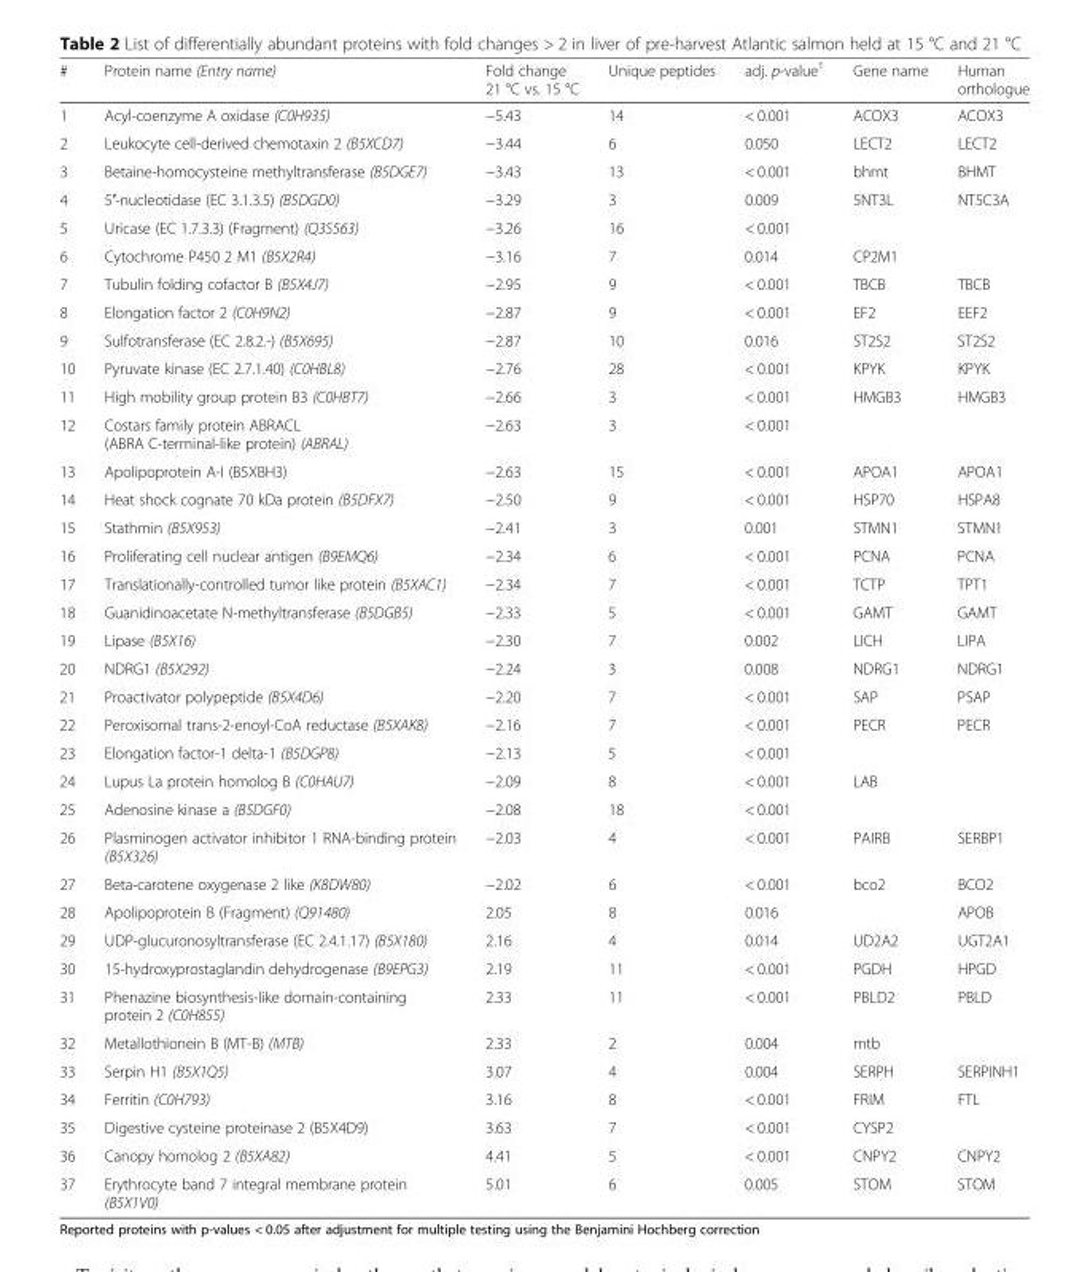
<table><thead><tr><td>#</td><td>Protein name (Entry name)</td><td>Fold change 21 °C vs. 15 °C</td><td>Unique peptides</td><td>adj. p-value<sup>1</sup></td><td>Gene name</td><td>Human orthologue</td></tr></thead><tbody><tr><td>1</td><td>Acyl-coenzyme A oxidase (C0H935)</td><td>−5.43</td><td>14</td><td>&lt; 0.001</td><td>ACOX3</td><td>ACOX3</td></tr><tr><td>2</td><td>Leukocyte cell-derived chemotaxin 2 (B5XCD7)</td><td>−3.44</td><td>6</td><td>0.050</td><td>LECT2</td><td>LECT2</td></tr><tr><td>3</td><td>Betaine-homocysteine methyltransferase (B5DGE7)</td><td>−3.43</td><td>13</td><td>&lt; 0.001</td><td>bhmt</td><td>BHMT</td></tr><tr><td>4</td><td>5′-nucleotidase (EC 3.1.3.5) (B5DGD0)</td><td>−3.29</td><td>3</td><td>0.009</td><td>5NT3L</td><td>NT5C3A</td></tr><tr><td>5</td><td>Uricase (EC 1.7.3.3) (Fragment) (Q3S563)</td><td>−3.26</td><td>16</td><td>&lt; 0.001</td><td></td><td></td></tr><tr><td>6</td><td>Cytochrome P450 2 M1 (B5X2R4)</td><td>−3.16</td><td>7</td><td>0.014</td><td>CP2M1</td><td></td></tr><tr><td>7</td><td>Tubulin folding cofactor B (B5X4J7)</td><td>−2.95</td><td>9</td><td>&lt; 0.001</td><td>TBCB</td><td>TBCB</td></tr><tr><td>8</td><td>Elongation factor 2 (C0H9N2)</td><td>−2.87</td><td>9</td><td>&lt; 0.001</td><td>EF2</td><td>EEF2</td></tr><tr><td>9</td><td>Sulfotransferase (EC 2.8.2.-) (B5X695)</td><td>−2.87</td><td>10</td><td>0.016</td><td>ST2S2</td><td>ST2S2</td></tr><tr><td>10</td><td>Pyruvate kinase (EC 2.7.1.40) (C0HBL8)</td><td>−2.76</td><td>28</td><td>&lt; 0.001</td><td>KPYK</td><td>KPYK</td></tr><tr><td>11</td><td>High mobility group protein B3 (C0HBT7)</td><td>−2.66</td><td>3</td><td>&lt; 0.001</td><td>HMGB3</td><td>HMGB3</td></tr><tr><td>12</td><td>Costars family protein ABRACL (ABRA C-terminal-like protein) (ABRAL)</td><td>−2.63</td><td>3</td><td>&lt; 0.001</td><td></td><td></td></tr><tr><td>13</td><td>Apolipoprotein A-I (B5XBH3)</td><td>−2.63</td><td>15</td><td>&lt; 0.001</td><td>APOA1</td><td>APOA1</td></tr><tr><td>14</td><td>Heat shock cognate 70 kDa protein (B5DFX7)</td><td>−2.50</td><td>9</td><td>&lt; 0.001</td><td>HSP70</td><td>HSPA8</td></tr><tr><td>15</td><td>Stathmin (B5X953)</td><td>−2.41</td><td>3</td><td>0.001</td><td>STMN1</td><td>STMN1</td></tr><tr><td>16</td><td>Proliferating cell nuclear antigen (B9EMQ6)</td><td>−2.34</td><td>6</td><td>&lt; 0.001</td><td>PCNA</td><td>PCNA</td></tr><tr><td>17</td><td>Translationally-controlled tumor like protein (B5XAC1)</td><td>−2.34</td><td>7</td><td>&lt; 0.001</td><td>TCTP</td><td>TPT1</td></tr><tr><td>18</td><td>Guanidinoacetate N-methyltransferase (B5DGB5)</td><td>−2.33</td><td>5</td><td>&lt; 0.001</td><td>GAMT</td><td>GAMT</td></tr><tr><td>19</td><td>Lipase (B5X16)</td><td>−2.30</td><td>7</td><td>0.002</td><td>LICH</td><td>LIPA</td></tr><tr><td>20</td><td>NDRG1 (B5X292)</td><td>−2.24</td><td>3</td><td>0.008</td><td>NDRG1</td><td>NDRG1</td></tr><tr><td>21</td><td>Proactivator polypeptide (B5X4D6)</td><td>−2.20</td><td>7</td><td>&lt; 0.001</td><td>SAP</td><td>PSAP</td></tr><tr><td>22</td><td>Peroxisomal trans-2-enoyl-CoA reductase (B5XAK8)</td><td>−2.16</td><td>7</td><td>&lt; 0.001</td><td>PECR</td><td>PECR</td></tr><tr><td>23</td><td>Elongation factor-1 delta-1 (B5DGP8)</td><td>−2.13</td><td>5</td><td>&lt; 0.001</td><td></td><td></td></tr><tr><td>24</td><td>Lupus La protein homolog B (C0HAU7)</td><td>−2.09</td><td>8</td><td>&lt; 0.001</td><td>LAB</td><td></td></tr><tr><td>25</td><td>Adenosine kinase a (B5DGF0)</td><td>−2.08</td><td>18</td><td>&lt; 0.001</td><td></td><td></td></tr><tr><td>26</td><td>Plasminogen activator inhibitor 1 RNA-binding protein (B5X326)</td><td>−2.03</td><td>4</td><td>&lt; 0.001</td><td>PAIRB</td><td>SERBP1</td></tr><tr><td>27</td><td>Beta-carotene oxygenase 2 like (K8DW80)</td><td>−2.02</td><td>6</td><td>&lt; 0.001</td><td>bco2</td><td>BCO2</td></tr><tr><td>28</td><td>Apolipoprotein B (Fragment) (Q91480)</td><td>2.05</td><td>8</td><td>0.016</td><td></td><td>APOB</td></tr><tr><td>29</td><td>UDP-glucuronosyltransferase (EC 2.4.1.17) (B5X180)</td><td>2.16</td><td>4</td><td>0.014</td><td>UD2A2</td><td>UGT2A1</td></tr><tr><td>30</td><td>15-hydroxyprostaglandin dehydrogenase (B9EPG3)</td><td>2.19</td><td>11</td><td>&lt; 0.001</td><td>PGDH</td><td>HPGD</td></tr><tr><td>31</td><td>Phenazine biosynthesis-like domain-containing protein 2 (C0H855)</td><td>2.33</td><td>11</td><td>&lt; 0.001</td><td>PBLD2</td><td>PBLD</td></tr><tr><td>32</td><td>Metallothionein B (MT-B) (MTB)</td><td>2.33</td><td>2</td><td>0.004</td><td>mtb</td><td></td></tr><tr><td>33</td><td>Serpin H1 (B5X1Q5)</td><td>3.07</td><td>4</td><td>0.004</td><td>SERPH</td><td>SERPINH1</td></tr><tr><td>34</td><td>Ferritin (C0H793)</td><td>3.16</td><td>8</td><td>&lt; 0.001</td><td>FRIM</td><td>FTL</td></tr><tr><td>35</td><td>Digestive cysteine proteinase 2 (B5X4D9)</td><td>3.63</td><td>7</td><td>&lt; 0.001</td><td>CYSP2</td><td></td></tr><tr><td>36</td><td>Canopy homolog 2 (B5XA82)</td><td>4.41</td><td>5</td><td>&lt; 0.001</td><td>CNPY2</td><td>CNPY2</td></tr><tr><td>37</td><td>Erythrocyte band 7 integral membrane protein (B5X1V0)</td><td>5.01</td><td>6</td><td>0.005</td><td>STOM</td><td>STOM</td></tr></tbody></table>